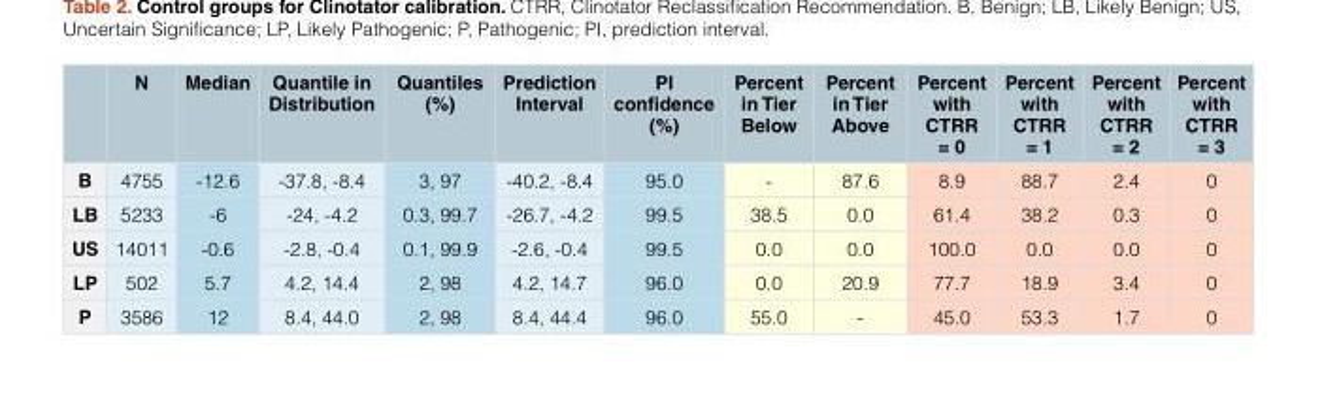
<table><thead><tr><td></td><td>N</td><td>Median</td><td>Quantile in Distribution</td><td>Quantiles (%)</td><td>Prediction Interval</td><td>PI confidence (%)</td><td>Percent in Tier Below</td><td>Percent in Tier Above</td><td>Percent with CTRR = 0</td><td>Percent with CTRR = 1</td><td>Percent with CTRR = 2</td><td>Percent with CTRR = 3</td></tr></thead><tbody><tr><td>B</td><td>4755</td><td>-12.6</td><td>-37.8, -8.4</td><td>3, 97</td><td>-40.2, -8.4</td><td>95.0</td><td>-</td><td>87.6</td><td>8.9</td><td>88.7</td><td>2.4</td><td>0</td></tr><tr><td>LB</td><td>5233</td><td>-6</td><td>-24, -4.2</td><td>0.3, 99.7</td><td>-26.7, -4.2</td><td>99.5</td><td>38.5</td><td>0.0</td><td>61.4</td><td>38.2</td><td>0.3</td><td>0</td></tr><tr><td>US</td><td>14011</td><td>-0.6</td><td>-2.8, -0.4</td><td>0.1, 99.9</td><td>-2.6, -0.4</td><td>99.5</td><td>0.0</td><td>0.0</td><td>100.0</td><td>0.0</td><td>0.0</td><td>0</td></tr><tr><td>LP</td><td>502</td><td>5.7</td><td>4.2, 14.4</td><td>2, 98</td><td>4.2, 14.7</td><td>96.0</td><td>0.0</td><td>20.9</td><td>77.7</td><td>18.9</td><td>3.4</td><td>0</td></tr><tr><td>P</td><td>3586</td><td>12</td><td>8.4, 44.0</td><td>2, 98</td><td>8.4, 44.4</td><td>96.0</td><td>55.0</td><td>-</td><td>45.0</td><td>53.3</td><td>1.7</td><td>0</td></tr></tbody></table>